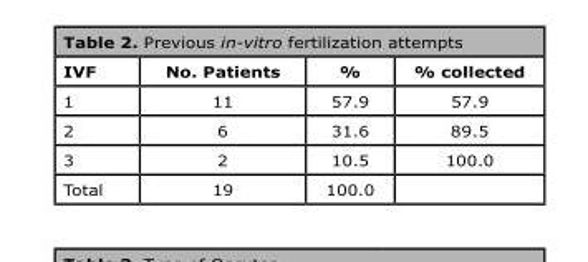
<table><thead><tr><td>IVF</td><td>No. Patients</td><td>%</td><td>% collected</td></tr></thead><tbody><tr><td>1</td><td>11</td><td>57.9</td><td>57.9</td></tr><tr><td>2</td><td>6</td><td>31.6</td><td>89.5</td></tr><tr><td>3</td><td>2</td><td>10.5</td><td>100.0</td></tr><tr><td>Total</td><td>19</td><td>100.0</td><td></td></tr></tbody></table>